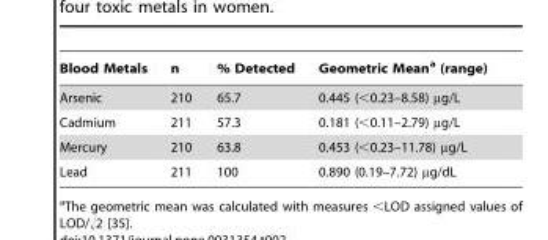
<table><thead><tr><td>Blood Metals</td><td>n</td><td>% Detected</td><td>Geometric Mean<sup>a</sup> (range)</td></tr></thead><tbody><tr><td>Arsenic</td><td>210</td><td>65.7</td><td>0.445 (&lt;0.23–8.58) µg/L</td></tr><tr><td>Cadmium</td><td>211</td><td>57.3</td><td>0.181 (&lt;0.11–2.79) µg/L</td></tr><tr><td>Mercury</td><td>210</td><td>63.8</td><td>0.453 (&lt;0.23–11.78) µg/L</td></tr><tr><td>Lead</td><td>211</td><td>100</td><td>0.890 (0.19–7.72) µg/dL</td></tr></tbody></table>